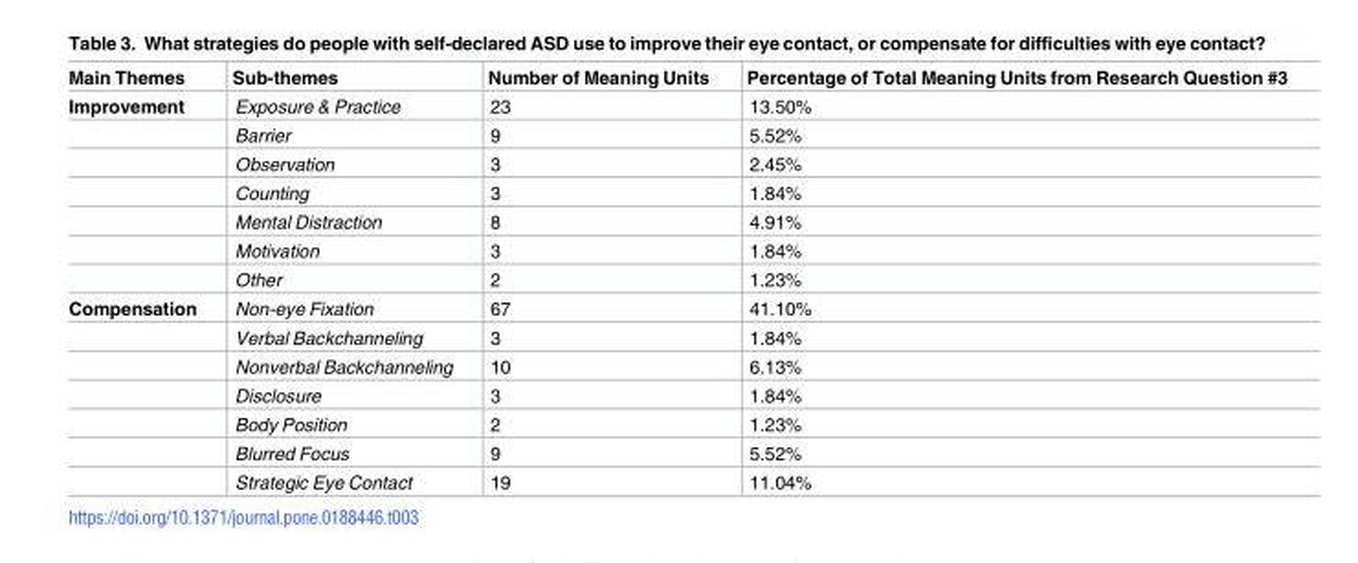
<table><thead><tr><td>Main Themes</td><td>Sub-themes</td><td>Number of Meaning Units</td><td>Percentage of Total Meaning Units from Research Question #3</td></tr></thead><tbody><tr><td rowspan="7">Improvement</td><td>Exposure &amp; Practice</td><td>23</td><td>13.50%</td></tr><tr><td>Barrier</td><td>9</td><td>5.52%</td></tr><tr><td>Observation</td><td>3</td><td>2.45%</td></tr><tr><td>Counting</td><td>3</td><td>1.84%</td></tr><tr><td>Mental Distraction</td><td>8</td><td>4.91%</td></tr><tr><td>Motivation</td><td>3</td><td>1.84%</td></tr><tr><td>Other</td><td>2</td><td>1.23%</td></tr><tr><td rowspan="7">Compensation</td><td>Non-eye Fixation</td><td>67</td><td>41.10%</td></tr><tr><td>Verbal Backchanneling</td><td>3</td><td>1.84%</td></tr><tr><td>Nonverbal Backchanneling</td><td>10</td><td>6.13%</td></tr><tr><td>Disclosure</td><td>3</td><td>1.84%</td></tr><tr><td>Body Position</td><td>2</td><td>1.23%</td></tr><tr><td>Blurred Focus</td><td>9</td><td>5.52%</td></tr><tr><td>Strategic Eye Contact</td><td>19</td><td>11.04%</td></tr></tbody></table>